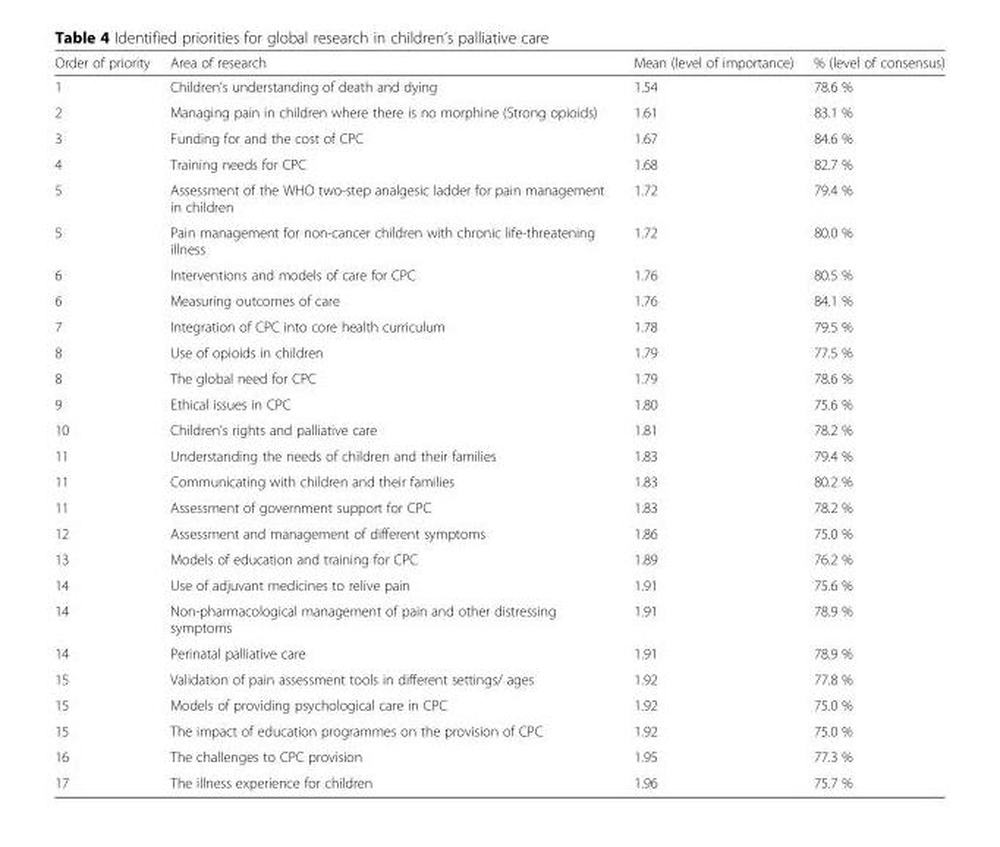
<table><thead><tr><td>Order of priority</td><td>Area of research</td><td>Mean (level of importance)</td><td>% (level of consensus)</td></tr></thead><tbody><tr><td>1</td><td>Children&#x27;s understanding of death and dying</td><td>1.54</td><td>78.6 %</td></tr><tr><td>2</td><td>Managing pain in children where there is no morphine (Strong opioids)</td><td>1.61</td><td>83.1 %</td></tr><tr><td>3</td><td>Funding for and the cost of CPC</td><td>1.67</td><td>84.6 %</td></tr><tr><td>4</td><td>Training needs for CPC</td><td>1.68</td><td>82.7 %</td></tr><tr><td>5</td><td>Assessment of the WHO two-step analgesic ladder for pain management in children</td><td>1.72</td><td>79.4 %</td></tr><tr><td>5</td><td>Pain management for non-cancer children with chronic life-threatening illness</td><td>1.72</td><td>80.0 %</td></tr><tr><td>6</td><td>Interventions and models of care for CPC</td><td>1.76</td><td>80.5 %</td></tr><tr><td>6</td><td>Measuring outcomes of care</td><td>1.76</td><td>84.1 %</td></tr><tr><td>7</td><td>Integration of CPC into core health curriculum</td><td>1.78</td><td>79.5 %</td></tr><tr><td>8</td><td>Use of opioids in children</td><td>1.79</td><td>77.5 %</td></tr><tr><td>8</td><td>The global need for CPC</td><td>1.79</td><td>78.6 %</td></tr><tr><td>9</td><td>Ethical issues in CPC</td><td>1.80</td><td>75.6 %</td></tr><tr><td>10</td><td>Children&#x27;s rights and palliative care</td><td>1.81</td><td>78.2 %</td></tr><tr><td>11</td><td>Understanding the needs of children and their families</td><td>1.83</td><td>79.4 %</td></tr><tr><td>11</td><td>Communicating with children and their families</td><td>1.83</td><td>80.2 %</td></tr><tr><td>11</td><td>Assessment of government support for CPC</td><td>1.83</td><td>78.2 %</td></tr><tr><td>12</td><td>Assessment and management of different symptoms</td><td>1.86</td><td>75.0 %</td></tr><tr><td>13</td><td>Models of education and training for CPC</td><td>1.89</td><td>76.2 %</td></tr><tr><td>14</td><td>Use of adjuvant medicines to relive pain</td><td>1.91</td><td>75.6 %</td></tr><tr><td>14</td><td>Non-pharmacological management of pain and other distressing symptoms</td><td>1.91</td><td>78.9 %</td></tr><tr><td>14</td><td>Perinatal palliative care</td><td>1.91</td><td>78.9 %</td></tr><tr><td>15</td><td>Validation of pain assessment tools in different settings/ ages</td><td>1.92</td><td>77.8 %</td></tr><tr><td>15</td><td>Models of providing psychological care in CPC</td><td>1.92</td><td>75.0 %</td></tr><tr><td>15</td><td>The impact of education programmes on the provision of CPC</td><td>1.92</td><td>75.0 %</td></tr><tr><td>16</td><td>The challenges to CPC provision</td><td>1.95</td><td>77.3 %</td></tr><tr><td>17</td><td>The illness experience for children</td><td>1.96</td><td>75.7 %</td></tr></tbody></table>